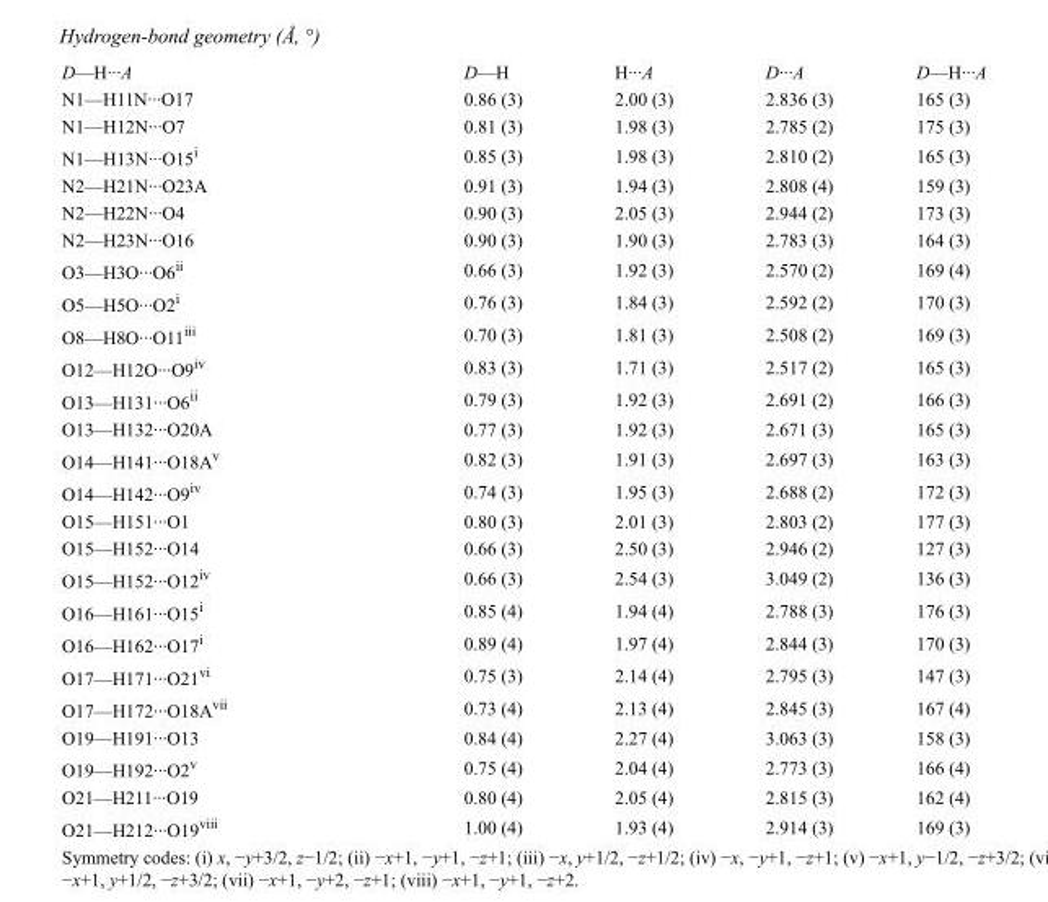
<table><tbody><tr><td>D—H···A</td><td>D—H</td><td>H···A</td><td>D···A</td><td>D—H···A</td></tr><tr><td>N1—H11N···O17</td><td>0.86 (3)</td><td>2.00 (3)</td><td>2.836 (3)</td><td>165 (3)</td></tr><tr><td>N1—H12N···O7</td><td>0.81 (3)</td><td>1.98 (3)</td><td>2.785 (2)</td><td>175 (3)</td></tr><tr><td>N1—H13N···O15<sup>i</sup></td><td>0.85 (3)</td><td>1.98 (3)</td><td>2.810 (2)</td><td>165 (3)</td></tr><tr><td>N2—H21N···O23A</td><td>0.91 (3)</td><td>1.94 (3)</td><td>2.808 (4)</td><td>159 (3)</td></tr><tr><td>N2—H22N···O4</td><td>0.90 (3)</td><td>2.05 (3)</td><td>2.944 (2)</td><td>173 (3)</td></tr><tr><td>N2—H23N···O16</td><td>0.90 (3)</td><td>1.90 (3)</td><td>2.783 (3)</td><td>164 (3)</td></tr><tr><td>O3—H3O···O6<sup>ii</sup></td><td>0.66 (3)</td><td>1.92 (3)</td><td>2.570 (2)</td><td>169 (4)</td></tr><tr><td>O5—H5O···O2<sup>i</sup></td><td>0.76 (3)</td><td>1.84 (3)</td><td>2.592 (2)</td><td>170 (3)</td></tr><tr><td>O8—H8O···O11<sup>iii</sup></td><td>0.70 (3)</td><td>1.81 (3)</td><td>2.508 (2)</td><td>169 (3)</td></tr><tr><td>O12—H12O···O9<sup>iv</sup></td><td>0.83 (3)</td><td>1.71 (3)</td><td>2.517 (2)</td><td>165 (3)</td></tr><tr><td>O13—H131···O6<sup>ii</sup></td><td>0.79 (3)</td><td>1.92 (3)</td><td>2.691 (2)</td><td>166 (3)</td></tr><tr><td>O13—H132···O20A</td><td>0.77 (3)</td><td>1.92 (3)</td><td>2.671 (3)</td><td>165 (3)</td></tr><tr><td>O14—H141···O18A<sup>v</sup></td><td>0.82 (3)</td><td>1.91 (3)</td><td>2.697 (3)</td><td>163 (3)</td></tr><tr><td>O14—H142···O9<sup>iv</sup></td><td>0.74 (3)</td><td>1.95 (3)</td><td>2.688 (2)</td><td>172 (3)</td></tr><tr><td>O15—H151···O1</td><td>0.80 (3)</td><td>2.01 (3)</td><td>2.803 (2)</td><td>177 (3)</td></tr><tr><td>O15—H152···O14</td><td>0.66 (3)</td><td>2.50 (3)</td><td>2.946 (2)</td><td>127 (3)</td></tr><tr><td>O15—H152···O12<sup>iv</sup></td><td>0.66 (3)</td><td>2.54 (3)</td><td>3.049 (2)</td><td>136 (3)</td></tr><tr><td>O16—H161···O15<sup>i</sup></td><td>0.85 (4)</td><td>1.94 (4)</td><td>2.788 (3)</td><td>176 (3)</td></tr><tr><td>O16—H162···O17<sup>i</sup></td><td>0.89 (4)</td><td>1.97 (4)</td><td>2.844 (3)</td><td>170 (3)</td></tr><tr><td>O17—H171···O21<sup>vi</sup></td><td>0.75 (3)</td><td>2.14 (4)</td><td>2.795 (3)</td><td>147 (3)</td></tr><tr><td>O17—H172···O18A<sup>vii</sup></td><td>0.73 (4)</td><td>2.13 (4)</td><td>2.845 (3)</td><td>167 (4)</td></tr><tr><td>O19—H191···O13</td><td>0.84 (4)</td><td>2.27 (4)</td><td>3.063 (3)</td><td>158 (3)</td></tr><tr><td>O19—H192···O2<sup>v</sup></td><td>0.75 (4)</td><td>2.04 (4)</td><td>2.773 (3)</td><td>166 (4)</td></tr><tr><td>O21—H211···O19</td><td>0.80 (4)</td><td>2.05 (4)</td><td>2.815 (3)</td><td>162 (4)</td></tr><tr><td>O21—H212···O19<sup>viii</sup></td><td>1.00 (4)</td><td>1.93 (4)</td><td>2.914 (3)</td><td>169 (3)</td></tr></tbody></table>